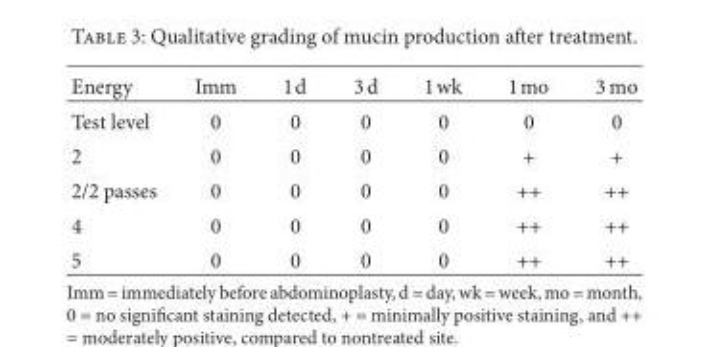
<table><thead><tr><td>Energy</td><td>Imm</td><td>1 d</td><td>3 d</td><td>1 wk</td><td>1 mo</td><td>3 mo</td></tr></thead><tbody><tr><td>Test level</td><td>0</td><td>0</td><td>0</td><td>0</td><td>0</td><td>0</td></tr><tr><td>2</td><td>0</td><td>0</td><td>0</td><td>0</td><td>+</td><td>+</td></tr><tr><td>2/2 passes</td><td>0</td><td>0</td><td>0</td><td>0</td><td>++</td><td>++</td></tr><tr><td>4</td><td>0</td><td>0</td><td>0</td><td>0</td><td>++</td><td>++</td></tr><tr><td>5</td><td>0</td><td>0</td><td>0</td><td>0</td><td>++</td><td>++</td></tr></tbody></table>